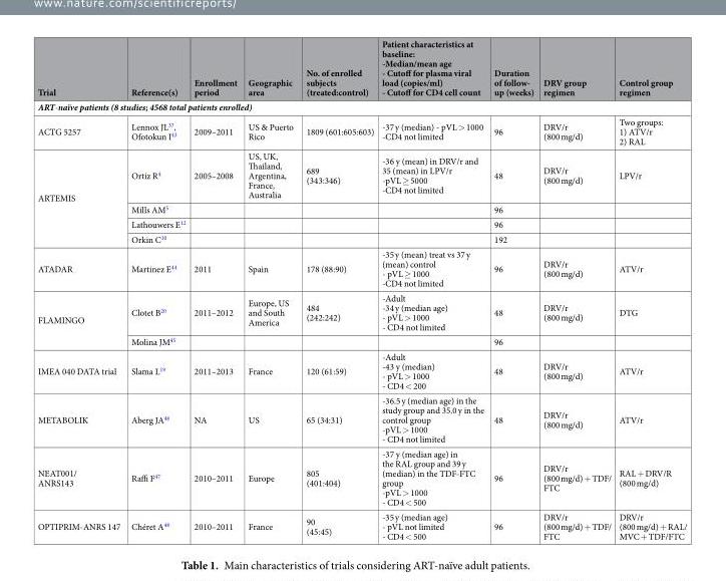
<table><thead><tr><td>Trial</td><td>Reference(s)</td><td>Enrollment period</td><td>Geographic area</td><td>No. of enrolled subjects (treated:control)</td><td>Patient characteristics at baseline: -Median/mean age - Cutoff for plasma viral load (copies/ml) - Cutoff for CD4 cell count</td><td>Duration of follow- up (weeks)</td><td>DRV group regimen</td><td>Control group regimen</td></tr></thead><tbody><tr><td colspan="9">ART-naïve patients (8 studies; 4568 total patients enrolled)</td></tr><tr><td>ACTG 5257</td><td>Lennox JL<sup>37</sup>, Ofotokun I<sup>43</sup></td><td>2009–2011</td><td>US &amp; Puerto Rico</td><td>1809 (601:605:603)</td><td>-37 y (median) - pVL &gt; 1000 -CD4 not limited</td><td>96</td><td>DRV/r (800 mg/d)</td><td>Two groups: 1) ATV/r 2) RAL</td></tr><tr><td rowspan="4">ARTEMIS</td><td>Ortiz R<sup>4</sup></td><td>2005–2008</td><td>US, UK, Thailand, Argentina, France, Australia</td><td>689 (343:346)</td><td>-36 y (mean) in DRV/r and 35 (mean) in LPV/r -pVL ≥ 5000 -CD4 not limited</td><td>48</td><td>DRV/r (800 mg/d)</td><td>LPV/r</td></tr><tr><td>Mills AM<sup>5</sup></td><td></td><td></td><td></td><td></td><td>96</td><td></td><td></td></tr><tr><td>Lathouwers E<sup>12</sup></td><td></td><td></td><td></td><td></td><td>96</td><td></td><td></td></tr><tr><td>Orkin C<sup>10</sup></td><td></td><td></td><td></td><td></td><td>192</td><td></td><td></td></tr><tr><td>ATADAR</td><td>Martinez E<sup>44</sup></td><td>2011</td><td>Spain</td><td>178 (88:90)</td><td>-35 y (mean) treat vs 37 y (mean) control - pVL ≥ 1000 -CD4 not limited</td><td>96</td><td>DRV/r (800 mg/d)</td><td>ATV/r</td></tr><tr><td rowspan="2">FLAMINGO</td><td>Clotet B<sup>20</sup></td><td>2011–2012</td><td>Europe, US and South America</td><td>484 (242:242)</td><td>-Adult -34 y (median age) - pVL &gt; 1000 - CD4 not limited</td><td>48</td><td>DRV/r (800 mg/d)</td><td>DTG</td></tr><tr><td>Molina JM<sup>45</sup></td><td></td><td></td><td></td><td></td><td>96</td><td></td><td></td></tr><tr><td>IMEA 040 DATA trial</td><td>Slama L<sup>19</sup></td><td>2011–2013</td><td>France</td><td>120 (61:59)</td><td>-Adult -43 y (median) - pVL &gt; 1000 - CD4 &lt; 200</td><td>48</td><td>DRV/r (800 mg/d)</td><td>ATV/r</td></tr><tr><td>METABOLIK</td><td>Aberg JA<sup>46</sup></td><td>NA</td><td>US</td><td>65 (34:31)</td><td>-36.5 y (median age) in the study group and 35.0 y in the control group -pVL &gt; 1000 - CD4 not limited</td><td>48</td><td>DRV/r (800 mg/d)</td><td>ATV/r</td></tr><tr><td>NEAT001/ ANRS143</td><td>Raffi F<sup>47</sup></td><td>2010–2011</td><td>Europe</td><td>805 (401:404)</td><td>-37 y (median age) in the RAL group and 39 y (median) in the TDF-FTC group -pVL &gt; 1000 - CD4 &lt; 500</td><td>96</td><td>DRV/r (800 mg/d) + TDF/ FTC</td><td>RAL + DRV/R (800 mg/d)</td></tr><tr><td>OPTIPRIM-ANRS 147</td><td>Chéret A<sup>48</sup></td><td>2010–2011</td><td>France</td><td>90 (45:45)</td><td>-35 y (median age) - pVL not limited - CD4 &lt; 500</td><td>96</td><td>DRV/r (800 mg/d) + TDF/ FTC</td><td>DRV/r (800 mg/d) + RAL/ MVC + TDF/FTC</td></tr></tbody></table>